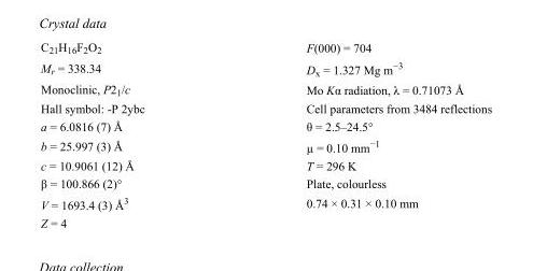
<table><tbody><tr><td>C<sub>21</sub>H<sub>16</sub>F<sub>2</sub>O<sub>2</sub></td><td>F(000) = 704</td></tr><tr><td>M<sub>r</sub> = 338.34</td><td>D<sub>x</sub> = 1.327 Mg m<sup>−3</sup></td></tr><tr><td>Monoclinic, P2<sub>1</sub>/c</td><td>Mo Kα radiation, λ = 0.71073 Å</td></tr><tr><td>Hall symbol: -P 2ybc</td><td>Cell parameters from 3484 reflections</td></tr><tr><td>a = 6.0816 (7) Å</td><td>θ = 2.5–24.5°</td></tr><tr><td>b = 25.997 (3) Å</td><td>µ = 0.10 mm<sup>−1</sup></td></tr><tr><td>c = 10.9061 (12) Å</td><td>T = 296 K</td></tr><tr><td>β = 100.866 (2)°</td><td>Plate, colourless</td></tr><tr><td>V = 1693.4 (3) Å<sup>3</sup></td><td>0.74 × 0.31 × 0.10 mm</td></tr><tr><td>Z = 4</td><td></td></tr></tbody></table>